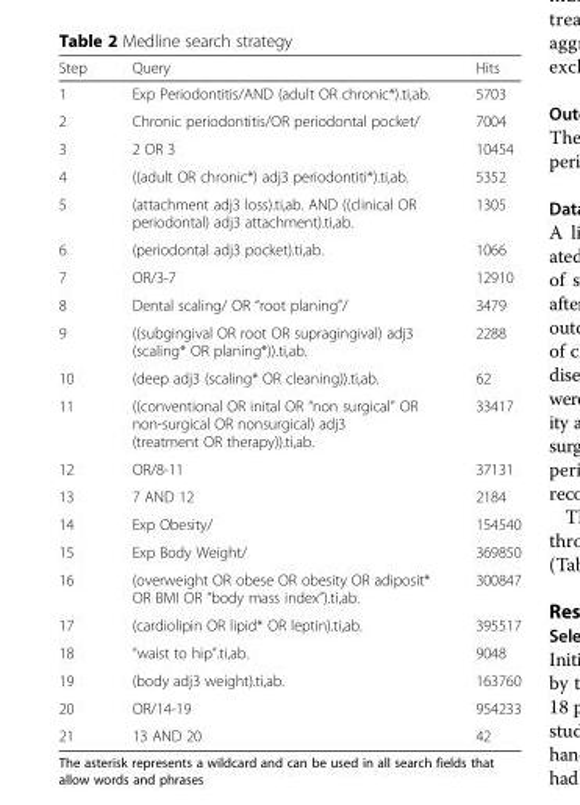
<table><thead><tr><td>Step</td><td>Query</td><td>Hits</td></tr></thead><tbody><tr><td>1</td><td>Exp Periodontitis/AND (adult OR chronic*).ti,ab.</td><td>5703</td></tr><tr><td>2</td><td>Chronic periodontitis/OR periodontal pocket/</td><td>7004</td></tr><tr><td>3</td><td>2 OR 3</td><td>10454</td></tr><tr><td>4</td><td>((adult OR chronic*) adj3 periodontiti*).ti,ab.</td><td>5352</td></tr><tr><td>5</td><td>(attachment adj3 loss).ti,ab. AND ((clinical OR periodontal) adj3 attachment).ti,ab.</td><td>1305</td></tr><tr><td>6</td><td>(periodontal adj3 pocket).ti,ab.</td><td>1066</td></tr><tr><td>7</td><td>OR/3-7</td><td>12910</td></tr><tr><td>8</td><td>Dental scaling/ OR “root planing”/</td><td>3479</td></tr><tr><td>9</td><td>((subgingival OR root OR supragingival) adj3 (scaling* OR planing*)).ti,ab.</td><td>2288</td></tr><tr><td>10</td><td>(deep adj3 (scaling* OR cleaning)).ti,ab.</td><td>62</td></tr><tr><td>11</td><td>((conventional OR inital OR “non surgical” OR non-surgical OR nonsurgical) adj3 (treatment OR therapy)).ti,ab.</td><td>33417</td></tr><tr><td>12</td><td>OR/8-11</td><td>37131</td></tr><tr><td>13</td><td>7 AND 12</td><td>2184</td></tr><tr><td>14</td><td>Exp Obesity/</td><td>154540</td></tr><tr><td>15</td><td>Exp Body Weight/</td><td>369850</td></tr><tr><td>16</td><td>(overweight OR obese OR obesity OR adiposit* OR BMI OR “body mass index”).ti,ab.</td><td>300847</td></tr><tr><td>17</td><td>(cardiolipin OR lipid* OR leptin).ti,ab.</td><td>395517</td></tr><tr><td>18</td><td>“waist to hip”.ti,ab.</td><td>9048</td></tr><tr><td>19</td><td>(body adj3 weight).ti,ab.</td><td>163760</td></tr><tr><td>20</td><td>OR/14-19</td><td>954233</td></tr><tr><td>21</td><td>13 AND 20</td><td>42</td></tr></tbody></table>